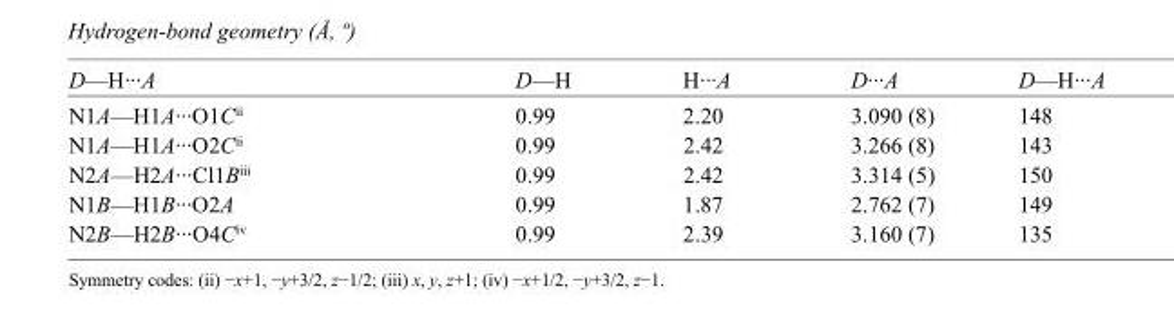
<table><tbody><tr><td>D—H···A</td><td>D—H</td><td>H···A</td><td>D···A</td><td>D—H···A</td></tr><tr><td>N1A—H1A···O1C<sup>ii</sup></td><td>0.99</td><td>2.20</td><td>3.090 (8)</td><td>148</td></tr><tr><td>N1A—H1A···O2C<sup>ii</sup></td><td>0.99</td><td>2.42</td><td>3.266 (8)</td><td>143</td></tr><tr><td>N2A—H2A···Cl1B<sup>iii</sup></td><td>0.99</td><td>2.42</td><td>3.314 (5)</td><td>150</td></tr><tr><td>N1B—H1B···O2A</td><td>0.99</td><td>1.87</td><td>2.762 (7)</td><td>149</td></tr><tr><td>N2B—H2B···O4C<sup>iv</sup></td><td>0.99</td><td>2.39</td><td>3.160 (7)</td><td>135</td></tr></tbody></table>